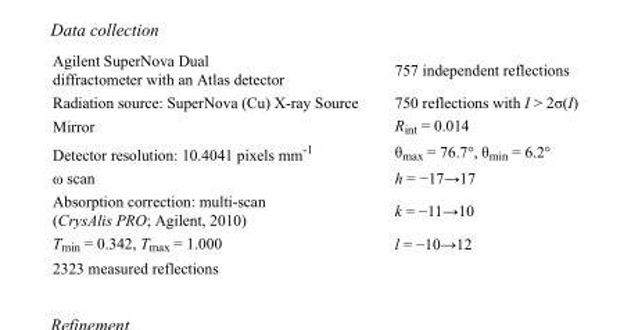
<table><tbody><tr><td>Agilent SuperNova Dual diffractometer with an Atlas detector</td><td>757 independent reflections</td></tr><tr><td>Radiation source: SuperNova (Cu) X-ray Source</td><td>750 reflections with I &gt; 2σ(I)</td></tr><tr><td>Mirror</td><td>R<sub>int</sub> = 0.014</td></tr><tr><td>Detector resolution: 10.4041 pixels mm<sup>-1</sup></td><td>θ<sub>max</sub> = 76.7°, θ<sub>min</sub> = 6.2°</td></tr><tr><td>ω scan</td><td>h = −17→17</td></tr><tr><td>Absorption correction: multi-scan (CrysAlis PRO; Agilent, 2010)</td><td>k = −11→10</td></tr><tr><td>T<sub>min</sub> = 0.342, T<sub>max</sub> = 1.000</td><td>l = −10→12</td></tr><tr><td>2323 measured reflections</td><td></td></tr></tbody></table>